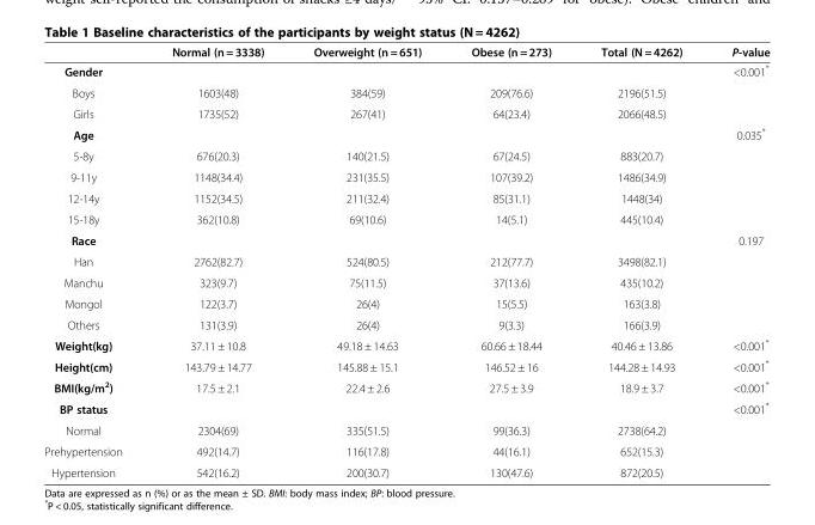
<table><thead><tr><td></td><td>Normal (n = 3338)</td><td>Overweight (n = 651)</td><td>Obese (n = 273)</td><td>Total (N = 4262)</td><td>P-value</td></tr></thead><tbody><tr><td>Gender</td><td></td><td></td><td></td><td></td><td>&lt;0.001*</td></tr><tr><td>Boys</td><td>1603(48)</td><td>384(59)</td><td>209(76.6)</td><td>2196(51.5)</td><td></td></tr><tr><td>Girls</td><td>1735(52)</td><td>267(41)</td><td>64(23.4)</td><td>2066(48.5)</td><td></td></tr><tr><td>Age</td><td></td><td></td><td></td><td></td><td>0.035*</td></tr><tr><td>5-8y</td><td>676(20.3)</td><td>140(21.5)</td><td>67(24.5)</td><td>883(20.7)</td><td></td></tr><tr><td>9-11y</td><td>1148(34.4)</td><td>231(35.5)</td><td>107(39.2)</td><td>1486(34.9)</td><td></td></tr><tr><td>12-14y</td><td>1152(34.5)</td><td>211(32.4)</td><td>85(31.1)</td><td>1448(34)</td><td></td></tr><tr><td>15-18y</td><td>362(10.8)</td><td>69(10.6)</td><td>14(5.1)</td><td>445(10.4)</td><td></td></tr><tr><td>Race</td><td></td><td></td><td></td><td></td><td>0.197</td></tr><tr><td>Han</td><td>2762(82.7)</td><td>524(80.5)</td><td>212(77.7)</td><td>3498(82.1)</td><td></td></tr><tr><td>Manchu</td><td>323(9.7)</td><td>75(11.5)</td><td>37(13.6)</td><td>435(10.2)</td><td></td></tr><tr><td>Mongol</td><td>122(3.7)</td><td>26(4)</td><td>15(5.5)</td><td>163(3.8)</td><td></td></tr><tr><td>Others</td><td>131(3.9)</td><td>26(4)</td><td>9(3.3)</td><td>166(3.9)</td><td></td></tr><tr><td>Weight(kg)</td><td>37.11 ± 10.8</td><td>49.18 ± 14.63</td><td>60.66 ± 18.44</td><td>40.46 ± 13.86</td><td>&lt;0.001*</td></tr><tr><td>Height(cm)</td><td>143.79 ± 14.77</td><td>145.88 ± 15.1</td><td>146.52 ± 16</td><td>144.28 ± 14.93</td><td>&lt;0.001*</td></tr><tr><td>BMI(kg/m<sup>2</sup>)</td><td>17.5 ± 2.1</td><td>22.4 ± 2.6</td><td>27.5 ± 3.9</td><td>18.9 ± 3.7</td><td>&lt;0.001*</td></tr><tr><td>BP status</td><td></td><td></td><td></td><td></td><td>&lt;0.001*</td></tr><tr><td>Normal</td><td>2304(69)</td><td>335(51.5)</td><td>99(36.3)</td><td>2738(64.2)</td><td></td></tr><tr><td>Prehypertension</td><td>492(14.7)</td><td>116(17.8)</td><td>44(16.1)</td><td>652(15.3)</td><td></td></tr><tr><td>Hypertension</td><td>542(16.2)</td><td>200(30.7)</td><td>130(47.6)</td><td>872(20.5)</td><td></td></tr></tbody></table>